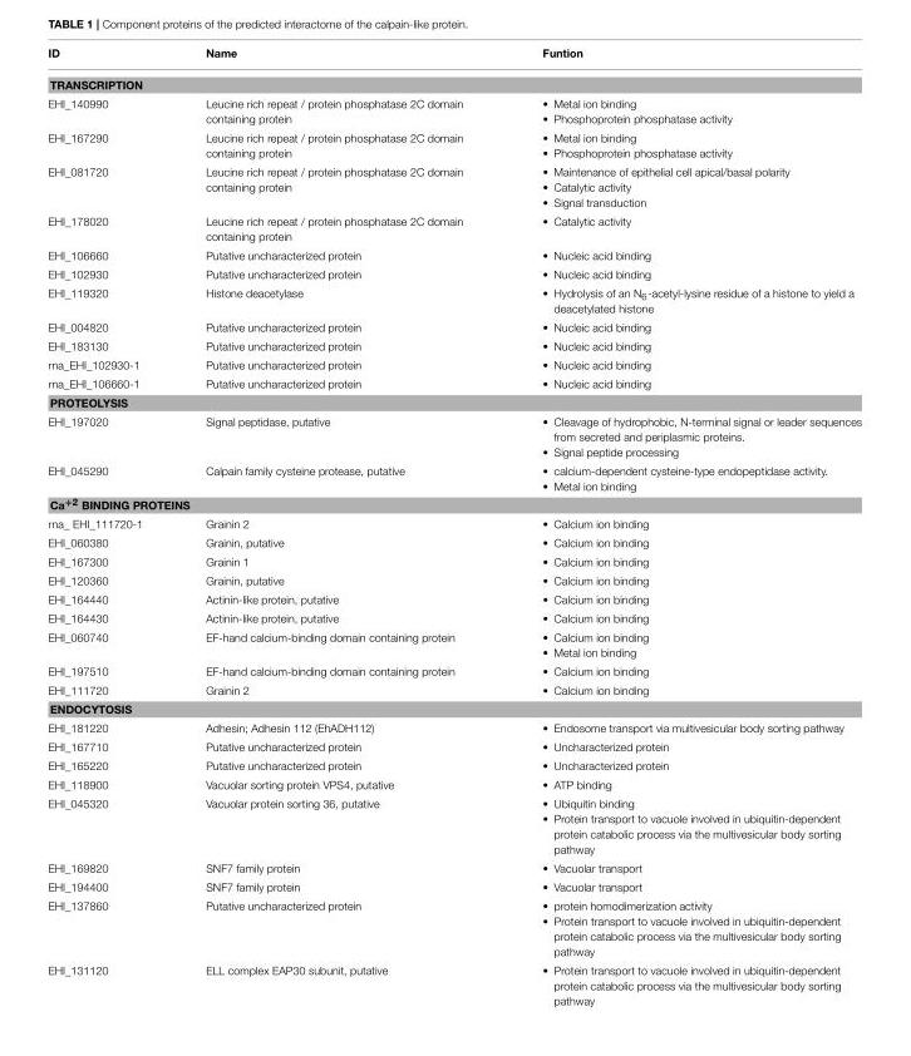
<table><thead><tr><td>ID</td><td>Name</td><td>Funtion</td></tr></thead><tbody><tr><td colspan="3">TRANSCRIPTION</td></tr><tr><td>EHI_140990</td><td>Leucine rich repeat / protein phosphatase 2C domain containing protein</td><td>• Metal ion binding • Phosphoprotein phosphatase activity</td></tr><tr><td>EHI_167290</td><td>Leucine rich repeat / protein phosphatase 2C domain containing protein</td><td>• Metal ion binding • Phosphoprotein phosphatase activity</td></tr><tr><td>EHI_081720</td><td>Leucine rich repeat / protein phosphatase 2C domain containing protein</td><td>• Maintenance of epithelial cell apical/basal polarity • Catalytic activity • Signal transduction</td></tr><tr><td>EHI_178020</td><td>Leucine rich repeat / protein phosphatase 2C domain containing protein</td><td>• Catalytic activity</td></tr><tr><td>EHI_106660</td><td>Putative uncharacterized protein</td><td>• Nucleic acid binding</td></tr><tr><td>EHI_102930</td><td>Putative uncharacterized protein</td><td>• Nucleic acid binding</td></tr><tr><td>EHI_119320</td><td>Histone deacetylase</td><td>• Hydrolysis of an N<sub>6</sub>-acetyl-lysine residue of a histone to yield a deacetylated histone</td></tr><tr><td>EHI_004820</td><td>Putative uncharacterized protein</td><td>• Nucleic acid binding</td></tr><tr><td>EHI_183130</td><td>Putative uncharacterized protein</td><td>• Nucleic acid binding</td></tr><tr><td>rna_EHI_102930-1</td><td>Putative uncharacterized protein</td><td>• Nucleic acid binding</td></tr><tr><td>rna_EHI_106660-1</td><td>Putative uncharacterized protein</td><td>• Nucleic acid binding</td></tr><tr><td colspan="3">PROTEOLYSIS</td></tr><tr><td>EHI_197020</td><td>Signal peptidase, putative</td><td>• Cleavage of hydrophobic, N-terminal signal or leader sequences from secreted and periplasmic proteins. • Signal peptide processing</td></tr><tr><td>EHI_045290</td><td>Calpain family cysteine protease, putative</td><td>• calcium-dependent cysteine-type endopeptidase activity. • Metal ion binding</td></tr><tr><td colspan="3">Ca<sup>+2</sup> BINDING PROTEINS</td></tr><tr><td>rna_ EHI_111720-1</td><td>Grainin 2</td><td>• Calcium ion binding</td></tr><tr><td>EHI_060380</td><td>Grainin, putative</td><td>• Calcium ion binding</td></tr><tr><td>EHI_167300</td><td>Grainin 1</td><td>• Calcium ion binding</td></tr><tr><td>EHI_120360</td><td>Grainin, putative</td><td>• Calcium ion binding</td></tr><tr><td>EHI_164440</td><td>Actinin-like protein, putative</td><td>• Calcium ion binding</td></tr><tr><td>EHI_164430</td><td>Actinin-like protein, putative</td><td>• Calcium ion binding</td></tr><tr><td>EHI_060740</td><td>EF-hand calcium-binding domain containing protein</td><td>• Calcium ion binding • Metal ion binding</td></tr><tr><td>EHI_197510</td><td>EF-hand calcium-binding domain containing protein</td><td>• Calcium ion binding</td></tr><tr><td>EHI_111720</td><td>Grainin 2</td><td>• Calcium ion binding</td></tr><tr><td colspan="3">ENDOCYTOSIS</td></tr><tr><td>EHI_181220</td><td>Adhesin; Adhesin 112 (EhADH112)</td><td>• Endosome transport via multivesicular body sorting pathway</td></tr><tr><td>EHI_167710</td><td>Putative uncharacterized protein</td><td>• Uncharacterized protein</td></tr><tr><td>EHI_165220</td><td>Putative uncharacterized protein</td><td>• Uncharacterized protein</td></tr><tr><td>EHI_118900</td><td>Vacuolar sorting protein VPS4, putative</td><td>• ATP binding</td></tr><tr><td>EHI_045320</td><td>Vacuolar protein sorting 36, putative</td><td>• Ubiquitin binding • Protein transport to vacuole involved in ubiquitin-dependent protein catabolic process via the multivesicular body sorting pathway</td></tr><tr><td>EHI_169820</td><td>SNF7 family protein</td><td>• Vacuolar transport</td></tr><tr><td>EHI_194400</td><td>SNF7 family protein</td><td>• Vacuolar transport</td></tr><tr><td>EHI_137860</td><td>Putative uncharacterized protein</td><td>• protein homodimerization activity • Protein transport to vacuole involved in ubiquitin-dependent protein catabolic process via the multivesicular body sorting pathway</td></tr><tr><td>EHI_131120</td><td>ELL complex EAP30 subunit, putative</td><td>• Protein transport to vacuole involved in ubiquitin-dependent protein catabolic process via the multivesicular body sorting pathway</td></tr></tbody></table>